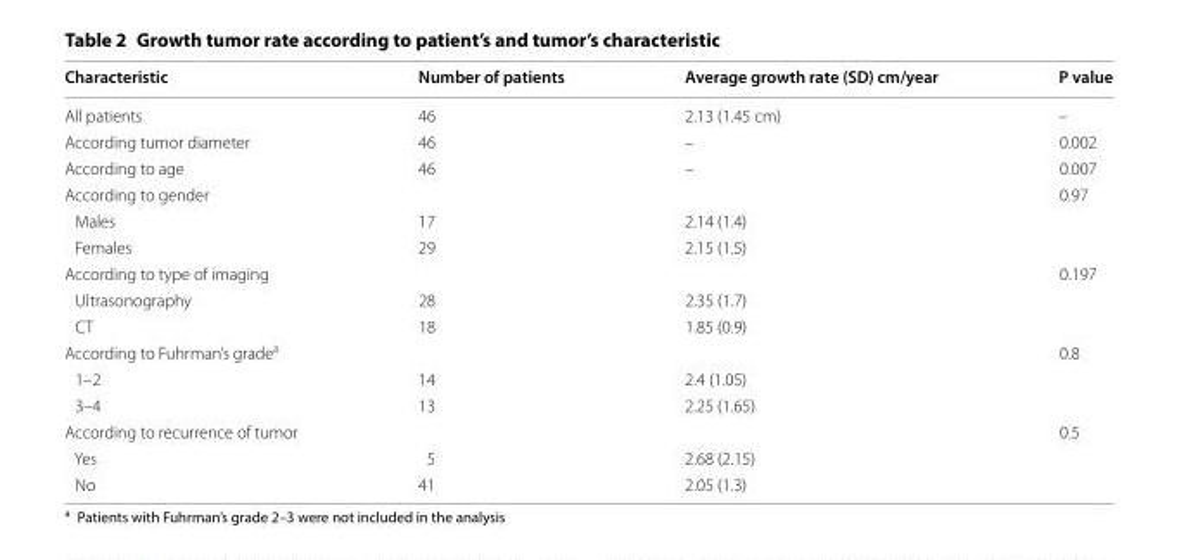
<table><thead><tr><td>Characteristic</td><td>Number of patients</td><td>Average growth rate (SD) cm/year</td><td>P value</td></tr></thead><tbody><tr><td>All patients</td><td>46</td><td>2.13 (1.45 cm)</td><td>–</td></tr><tr><td>According tumor diameter</td><td>46</td><td>–</td><td>0.002</td></tr><tr><td>According to age</td><td>46</td><td>–</td><td>0.007</td></tr><tr><td>According to gender</td><td></td><td></td><td>0.97</td></tr><tr><td>Males</td><td>17</td><td>2.14 (1.4)</td><td></td></tr><tr><td>Females</td><td>29</td><td>2.15 (1.5)</td><td></td></tr><tr><td>According to type of imaging</td><td></td><td></td><td>0.197</td></tr><tr><td>Ultrasonography</td><td>28</td><td>2.35 (1.7)</td><td></td></tr><tr><td>CT</td><td>18</td><td>1.85 (0.9)</td><td></td></tr><tr><td>According to Fuhrman’s grade<sup>a</sup></td><td></td><td></td><td>0.8</td></tr><tr><td>1–2</td><td>14</td><td>2.4 (1.05)</td><td></td></tr><tr><td>3–4</td><td>13</td><td>2.25 (1.65)</td><td></td></tr><tr><td>According to recurrence of tumor</td><td></td><td></td><td>0.5</td></tr><tr><td>Yes</td><td>5</td><td>2.68 (2.15)</td><td></td></tr><tr><td>No</td><td>41</td><td>2.05 (1.3)</td><td></td></tr></tbody></table>